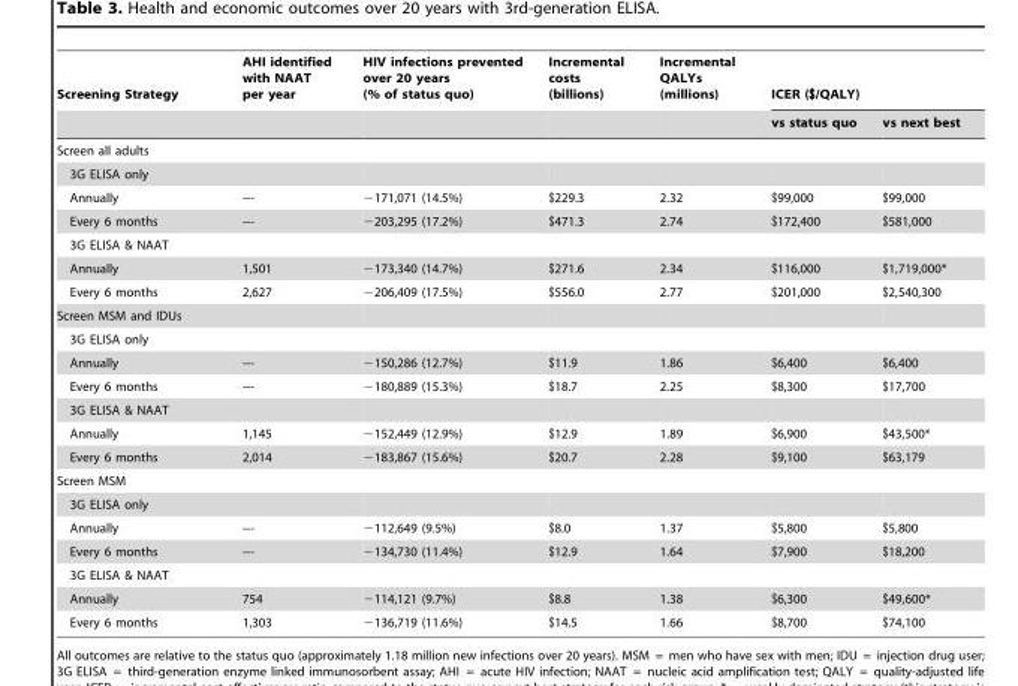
<table><thead><tr><td rowspan="2">Screening Strategy</td><td rowspan="2">AHI identified with NAAT per year</td><td rowspan="2">HIV infections prevented over 20 years (% of status quo)</td><td rowspan="2">Incremental costs (billions)</td><td rowspan="2">Incremental QALYs (millions)</td><td colspan="2">ICER ($/QALY)</td></tr><tr><td>vs status quo</td><td>vs next best</td></tr></thead><tbody><tr><td colspan="7">Screen all adults</td></tr><tr><td colspan="7">3G ELISA only</td></tr><tr><td>Annually</td><td>---</td><td>−171,071 (14.5%)</td><td>$229.3</td><td>2.32</td><td>$99,000</td><td>$99,000</td></tr><tr><td>Every 6 months</td><td>---</td><td>−203,295 (17.2%)</td><td>$471.3</td><td>2.74</td><td>$172,400</td><td>$581,000</td></tr><tr><td colspan="7">3G ELISA &amp; NAAT</td></tr><tr><td>Annually</td><td>1,501</td><td>−173,340 (14.7%)</td><td>$271.6</td><td>2.34</td><td>$116,000</td><td>$1,719,000*</td></tr><tr><td>Every 6 months</td><td>2,627</td><td>−206,409 (17.5%)</td><td>$556.0</td><td>2.77</td><td>$201,000</td><td>$2,540,300</td></tr><tr><td colspan="7">Screen MSM and IDUs</td></tr><tr><td colspan="7">3G ELISA only</td></tr><tr><td>Annually</td><td>---</td><td>−150,286 (12.7%)</td><td>$11.9</td><td>1.86</td><td>$6,400</td><td>$6,400</td></tr><tr><td>Every 6 months</td><td>---</td><td>−180,889 (15.3%)</td><td>$18.7</td><td>2.25</td><td>$8,300</td><td>$17,700</td></tr><tr><td colspan="7">3G ELISA &amp; NAAT</td></tr><tr><td>Annually</td><td>1,145</td><td>−152,449 (12.9%)</td><td>$12.9</td><td>1.89</td><td>$6,900</td><td>$43,500*</td></tr><tr><td>Every 6 months</td><td>2,014</td><td>−183,867 (15.6%)</td><td>$20.7</td><td>2.28</td><td>$9,100</td><td>$63,179</td></tr><tr><td colspan="7">Screen MSM</td></tr><tr><td colspan="7">3G ELISA only</td></tr><tr><td>Annually</td><td>---</td><td>−112,649 (9.5%)</td><td>$8.0</td><td>1.37</td><td>$5,800</td><td>$5,800</td></tr><tr><td>Every 6 months</td><td>---</td><td>−134,730 (11.4%)</td><td>$12.9</td><td>1.64</td><td>$7,900</td><td>$18,200</td></tr><tr><td colspan="7">3G ELISA &amp; NAAT</td></tr><tr><td>Annually</td><td>754</td><td>−114,121 (9.7%)</td><td>$8.8</td><td>1.38</td><td>$6,300</td><td>$49,600*</td></tr><tr><td>Every 6 months</td><td>1,303</td><td>−136,719 (11.6%)</td><td>$14.5</td><td>1.66</td><td>$8,700</td><td>$74,100</td></tr></tbody></table>